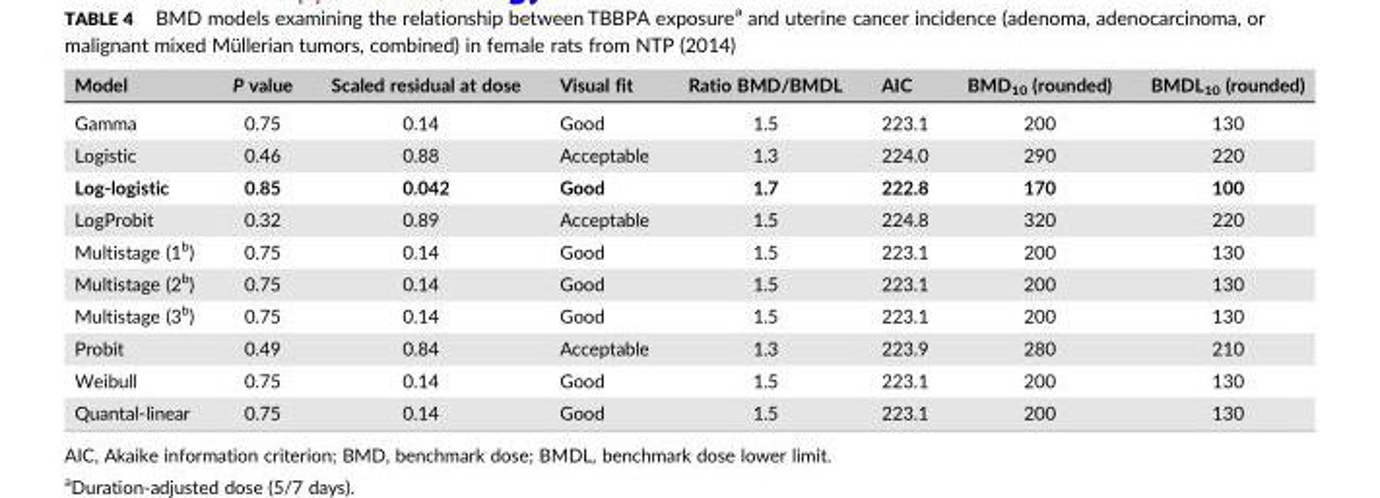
<table><thead><tr><td>Model</td><td>P value</td><td>Scaled residual at dose</td><td>Visual fit</td><td>Ratio BMD/BMDL</td><td>AIC</td><td>BMD<sub>10</sub> (rounded)</td><td>BMDL<sub>10</sub> (rounded)</td></tr></thead><tbody><tr><td>Gamma</td><td>0.75</td><td>0.14</td><td>Good</td><td>1.5</td><td>223.1</td><td>200</td><td>130</td></tr><tr><td>Logistic</td><td>0.46</td><td>0.88</td><td>Acceptable</td><td>1.3</td><td>224.0</td><td>290</td><td>220</td></tr><tr><td>Log‐logistic</td><td>0.85</td><td>0.042</td><td>Good</td><td>1.7</td><td>222.8</td><td>170</td><td>100</td></tr><tr><td>LogProbit</td><td>0.32</td><td>0.89</td><td>Acceptable</td><td>1.5</td><td>224.8</td><td>320</td><td>220</td></tr><tr><td>Multistage (1<sup>b</sup>)</td><td>0.75</td><td>0.14</td><td>Good</td><td>1.5</td><td>223.1</td><td>200</td><td>130</td></tr><tr><td>Multistage (2<sup>b</sup>)</td><td>0.75</td><td>0.14</td><td>Good</td><td>1.5</td><td>223.1</td><td>200</td><td>130</td></tr><tr><td>Multistage (3<sup>b</sup>)</td><td>0.75</td><td>0.14</td><td>Good</td><td>1.5</td><td>223.1</td><td>200</td><td>130</td></tr><tr><td>Probit</td><td>0.49</td><td>0.84</td><td>Acceptable</td><td>1.3</td><td>223.9</td><td>280</td><td>210</td></tr><tr><td>Weibull</td><td>0.75</td><td>0.14</td><td>Good</td><td>1.5</td><td>223.1</td><td>200</td><td>130</td></tr><tr><td>Quantal‐linear</td><td>0.75</td><td>0.14</td><td>Good</td><td>1.5</td><td>223.1</td><td>200</td><td>130</td></tr></tbody></table>